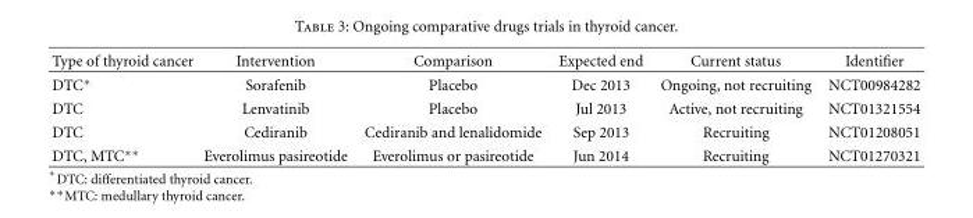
<table><thead><tr><td>Type of thyroid cancer</td><td>Intervention</td><td>Comparison</td><td>Expected end</td><td>Current status</td><td>Identifier</td></tr></thead><tbody><tr><td>DTC∗</td><td>Sorafenib</td><td>Placebo</td><td>Dec 2013</td><td>Ongoing, not recruiting</td><td>NCT00984282</td></tr><tr><td>DTC</td><td>Lenvatinib</td><td>Placebo</td><td>Jul 2013</td><td>Active, not recruiting</td><td>NCT01321554</td></tr><tr><td>DTC</td><td>Cediranib</td><td>Cediranib and lenalidomide</td><td>Sep 2013</td><td>Recruiting</td><td>NCT01208051</td></tr><tr><td>DTC, MTC∗∗</td><td>Everolimus pasireotide</td><td>Everolimus or pasireotide</td><td>Jun 2014</td><td>Recruiting</td><td>NCT01270321</td></tr></tbody></table>